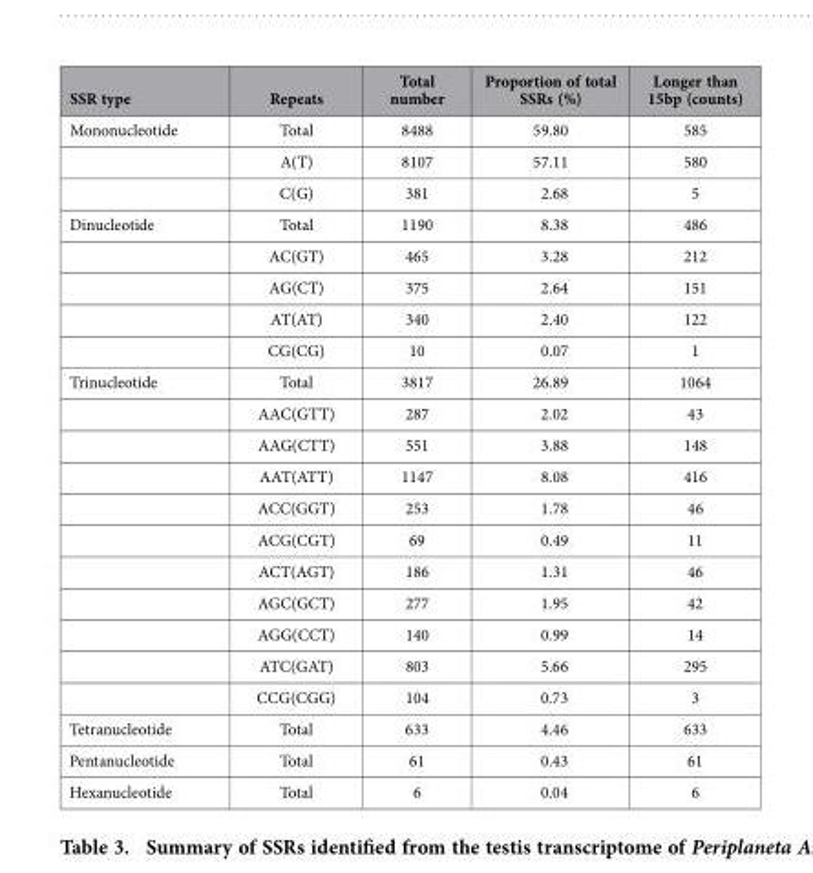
<table><thead><tr><td>SSR type</td><td>Repeats</td><td>Total number</td><td>Proportion of total SSRs (%)</td><td>Longer than 15bp (counts)</td></tr></thead><tbody><tr><td rowspan="3">Mononucleotide</td><td>Total</td><td>8488</td><td>59.80</td><td>585</td></tr><tr><td>A(T)</td><td>8107</td><td>57.11</td><td>580</td></tr><tr><td>C(G)</td><td>381</td><td>2.68</td><td>5</td></tr><tr><td rowspan="5">Dinucleotide</td><td>Total</td><td>1190</td><td>8.38</td><td>486</td></tr><tr><td>AC(GT)</td><td>465</td><td>3.28</td><td>212</td></tr><tr><td>AG(CT)</td><td>375</td><td>2.64</td><td>151</td></tr><tr><td>AT(AT)</td><td>340</td><td>2.40</td><td>122</td></tr><tr><td>CG(CG)</td><td>10</td><td>0.07</td><td>1</td></tr><tr><td rowspan="11">Trinucleotide</td><td>Total</td><td>3817</td><td>26.89</td><td>1064</td></tr><tr><td>AAC(GTT)</td><td>287</td><td>2.02</td><td>43</td></tr><tr><td>AAG(CTT)</td><td>551</td><td>3.88</td><td>148</td></tr><tr><td>AAT(ATT)</td><td>1147</td><td>8.08</td><td>416</td></tr><tr><td>ACC(GGT)</td><td>253</td><td>1.78</td><td>46</td></tr><tr><td>ACG(CGT)</td><td>69</td><td>0.49</td><td>11</td></tr><tr><td>ACT(AGT)</td><td>186</td><td>1.31</td><td>46</td></tr><tr><td>AGC(GCT)</td><td>277</td><td>1.95</td><td>42</td></tr><tr><td>AGG(CCT)</td><td>140</td><td>0.99</td><td>14</td></tr><tr><td>ATC(GAT)</td><td>803</td><td>5.66</td><td>295</td></tr><tr><td>CCG(CGG)</td><td>104</td><td>0.73</td><td>3</td></tr><tr><td>Tetranucleotide</td><td>Total</td><td>633</td><td>4.46</td><td>633</td></tr><tr><td>Pentanucleotide</td><td>Total</td><td>61</td><td>0.43</td><td>61</td></tr><tr><td>Hexanucleotide</td><td>Total</td><td>6</td><td>0.04</td><td>6</td></tr></tbody></table>